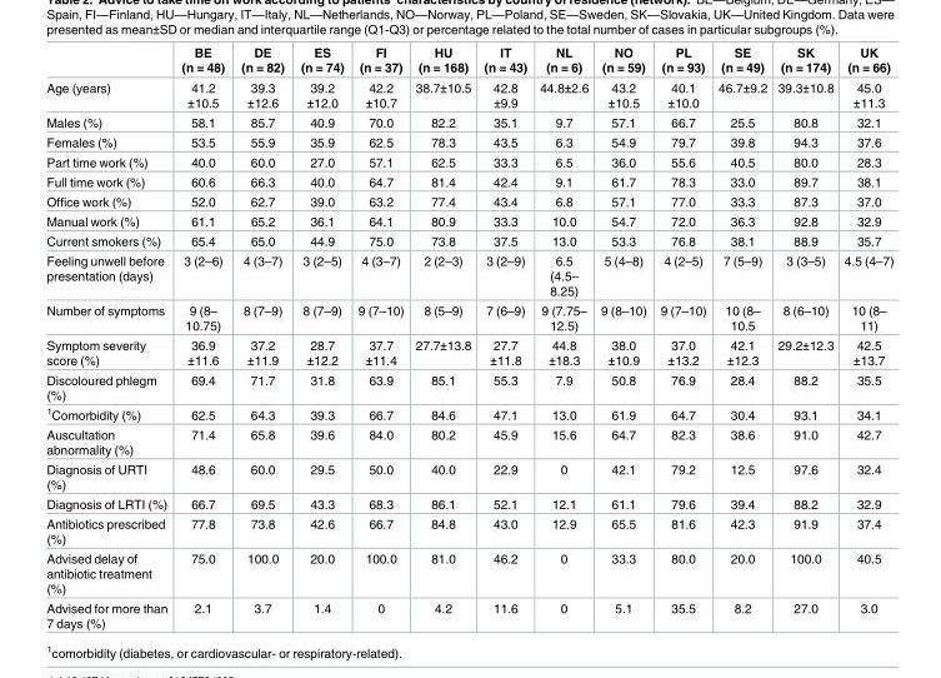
<table><thead><tr><td></td><td>BE (n = 48)</td><td>DE (n = 82)</td><td>ES (n = 74)</td><td>FI (n = 37)</td><td>HU (n = 168)</td><td>IT (n = 43)</td><td>NL (n = 6)</td><td>NO (n = 59)</td><td>PL (n = 93)</td><td>SE (n = 49)</td><td>SK (n = 174)</td><td>UK (n = 66)</td></tr></thead><tbody><tr><td>Age (years)</td><td>41.2 ±10.5</td><td>39.3 ±12.6</td><td>39.2 ±12.0</td><td>42.2 ±10.7</td><td>38.7±10.5</td><td>42.8 ±9.9</td><td>44.8±2.6</td><td>43.2 ±10.5</td><td>40.1 ±10.0</td><td>46.7±9.2</td><td>39.3±10.8</td><td>45.0 ±11.3</td></tr><tr><td>Males (%)</td><td>58.1</td><td>85.7</td><td>40.9</td><td>70.0</td><td>82.2</td><td>35.1</td><td>9.7</td><td>57.1</td><td>66.7</td><td>25.5</td><td>80.8</td><td>32.1</td></tr><tr><td>Females (%)</td><td>53.5</td><td>55.9</td><td>35.9</td><td>62.5</td><td>78.3</td><td>43.5</td><td>6.3</td><td>54.9</td><td>79.7</td><td>39.8</td><td>94.3</td><td>37.6</td></tr><tr><td>Part time work (%)</td><td>40.0</td><td>60.0</td><td>27.0</td><td>57.1</td><td>62.5</td><td>33.3</td><td>6.5</td><td>36.0</td><td>55.6</td><td>40.5</td><td>80.0</td><td>28.3</td></tr><tr><td>Full time work (%)</td><td>60.6</td><td>66.3</td><td>40.0</td><td>64.7</td><td>81.4</td><td>42.4</td><td>9.1</td><td>61.7</td><td>78.3</td><td>33.0</td><td>89.7</td><td>38.1</td></tr><tr><td>Office work (%)</td><td>52.0</td><td>62.7</td><td>39.0</td><td>63.2</td><td>77.4</td><td>43.4</td><td>6.8</td><td>57.1</td><td>77.0</td><td>33.3</td><td>87.3</td><td>37.0</td></tr><tr><td>Manual work (%)</td><td>61.1</td><td>65.2</td><td>36.1</td><td>64.1</td><td>80.9</td><td>33.3</td><td>10.0</td><td>54.7</td><td>72.0</td><td>36.3</td><td>92.8</td><td>32.9</td></tr><tr><td>Current smokers (%)</td><td>65.4</td><td>65.0</td><td>44.9</td><td>75.0</td><td>73.8</td><td>37.5</td><td>13.0</td><td>53.3</td><td>76.8</td><td>38.1</td><td>88.9</td><td>35.7</td></tr><tr><td>Feeling unwell before presentation (days)</td><td>3 (2–6)</td><td>4 (3–7)</td><td>3 (2–5)</td><td>4 (3–7)</td><td>2 (2–3)</td><td>3 (2–9)</td><td>6.5 (4.5– 8.25)</td><td>5 (4–8)</td><td>4 (2–5)</td><td>7 (5–9)</td><td>3 (3–5)</td><td>4.5 (4–7)</td></tr><tr><td>Number of symptoms</td><td>9 (8– 10.75)</td><td>8 (7–9)</td><td>8 (7–9)</td><td>9 (7–10)</td><td>8 (5–9)</td><td>7 (6–9)</td><td>9 (7.75– 12.5)</td><td>9 (8–10)</td><td>9 (7–10)</td><td>10 (8– 10.5</td><td>8 (6–10)</td><td>10 (8– 11)</td></tr><tr><td>Symptom severity score (%)</td><td>36.9 ±11.6</td><td>37.2 ±11.9</td><td>28.7 ±12.2</td><td>37.7 ±11.4</td><td>27.7±13.8</td><td>27.7 ±11.8</td><td>44.8 ±18.3</td><td>38.0 ±10.9</td><td>37.0 ±13.2</td><td>42.1 ±12.3</td><td>29.2±12.3</td><td>42.5 ±13.7</td></tr><tr><td>Discoloured phlegm (%)</td><td>69.4</td><td>71.7</td><td>31.8</td><td>63.9</td><td>85.1</td><td>55.3</td><td>7.9</td><td>50.8</td><td>76.9</td><td>28.4</td><td>88.2</td><td>35.5</td></tr><tr><td><sup>1</sup>Comorbidity (%)</td><td>62.5</td><td>64.3</td><td>39.3</td><td>66.7</td><td>84.6</td><td>47.1</td><td>13.0</td><td>61.9</td><td>64.7</td><td>30.4</td><td>93.1</td><td>34.1</td></tr><tr><td>Auscultation abnormality (%)</td><td>71.4</td><td>65.8</td><td>39.6</td><td>84.0</td><td>80.2</td><td>45.9</td><td>15.6</td><td>64.7</td><td>82.3</td><td>38.6</td><td>91.0</td><td>42.7</td></tr><tr><td>Diagnosis of URTI (%)</td><td>48.6</td><td>60.0</td><td>29.5</td><td>50.0</td><td>40.0</td><td>22.9</td><td>0</td><td>42.1</td><td>79.2</td><td>12.5</td><td>97.6</td><td>32.4</td></tr><tr><td>Diagnosis of LRTI (%)</td><td>66.7</td><td>69.5</td><td>43.3</td><td>68.3</td><td>86.1</td><td>52.1</td><td>12.1</td><td>61.1</td><td>79.6</td><td>39.4</td><td>88.2</td><td>32.9</td></tr><tr><td>Antibiotics prescribed (%)</td><td>77.8</td><td>73.8</td><td>42.6</td><td>66.7</td><td>84.8</td><td>43.0</td><td>12.9</td><td>65.5</td><td>81.6</td><td>42.3</td><td>91.9</td><td>37.4</td></tr><tr><td>Advised delay of antibiotic treatment (%)</td><td>75.0</td><td>100.0</td><td>20.0</td><td>100.0</td><td>81.0</td><td>46.2</td><td>0</td><td>33.3</td><td>80.0</td><td>20.0</td><td>100.0</td><td>40.5</td></tr><tr><td>Advised for more than 7 days (%)</td><td>2.1</td><td>3.7</td><td>1.4</td><td>0</td><td>4.2</td><td>11.6</td><td>0</td><td>5.1</td><td>35.5</td><td>8.2</td><td>27.0</td><td>3.0</td></tr></tbody></table>